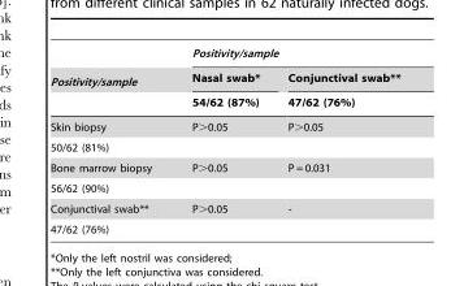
<table><thead><tr><td rowspan="3">Positivity/sample</td><td colspan="2">Positivity/sample</td></tr><tr><td rowspan="2">Nasal swab* 54/62 (87%)</td><td rowspan="2">Conjunctival swab** 47/62 (76%)</td></tr><tr></tr></thead><tbody><tr><td>Skin biopsy</td><td>P&gt;0.05</td><td>P&gt;0.05</td></tr><tr><td colspan="3">50/62 (81%)</td></tr><tr><td>Bone marrow biopsy</td><td>P&gt;0.05</td><td>P = 0.031</td></tr><tr><td colspan="3">56/62 (90%)</td></tr><tr><td>Conjunctival swab**</td><td>P&gt;0.05</td><td>-</td></tr><tr><td>47/62 (76%)</td><td></td><td></td></tr></tbody></table>